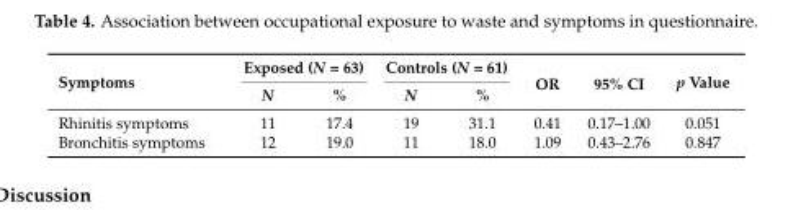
<table><thead><tr><td rowspan="2">Symptoms</td><td colspan="2">Exposed (N = 63)</td><td colspan="2">Controls (N = 61)</td><td rowspan="2">OR</td><td rowspan="2">95% CI</td><td rowspan="2">p Value</td></tr><tr><td>N</td><td>%</td><td>N</td><td>%</td></tr></thead><tbody><tr><td>Rhinitis symptoms</td><td>11</td><td>17.4</td><td>19</td><td>31.1</td><td>0.41</td><td>0.17–1.00</td><td>0.051</td></tr><tr><td>Bronchitis symptoms</td><td>12</td><td>19.0</td><td>11</td><td>18.0</td><td>1.09</td><td>0.43–2.76</td><td>0.847</td></tr></tbody></table>